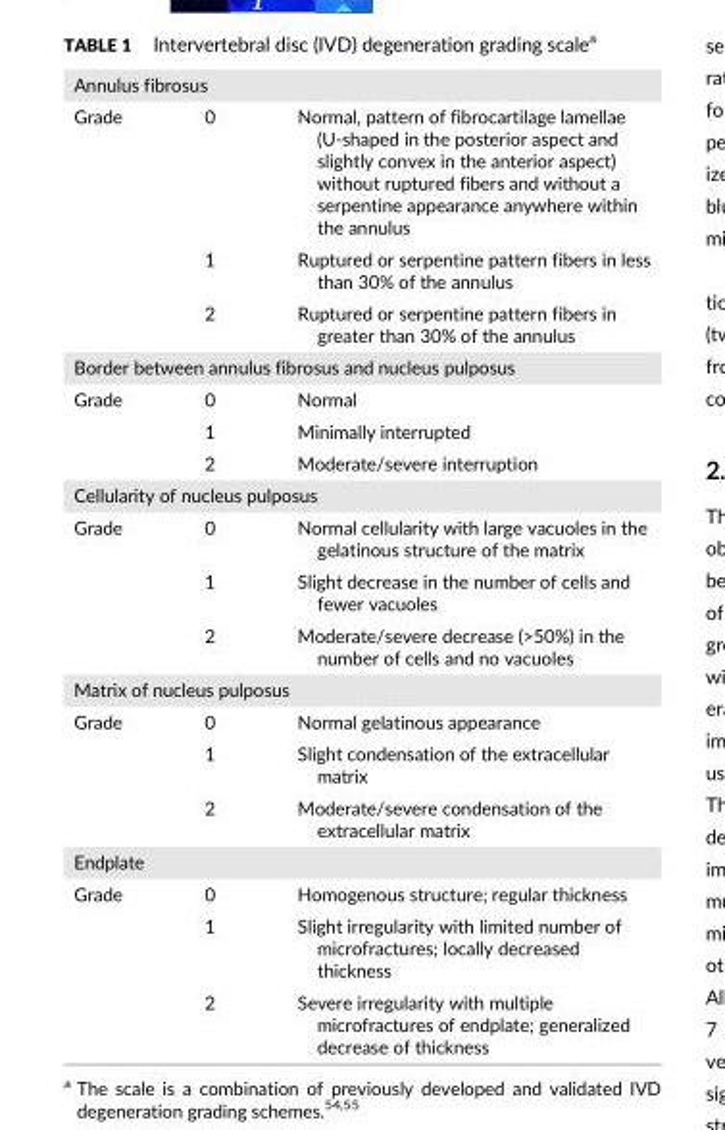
<table><tbody><tr><td colspan="3">Annulus fibrosus</td></tr><tr><td rowspan="3">Grade</td><td>0</td><td>Normal, pattern of fibrocartilage lamellae (U-shaped in the posterior aspect and slightly convex in the anterior aspect) without ruptured fibers and without a serpentine appearance anywhere within the annulus</td></tr><tr><td>1</td><td>Ruptured or serpentine pattern fibers in less than 30% of the annulus</td></tr><tr><td>2</td><td>Ruptured or serpentine pattern fibers in greater than 30% of the annulus</td></tr><tr><td colspan="3">Border between annulus fibrosus and nucleus pulposus</td></tr><tr><td rowspan="3">Grade</td><td>0</td><td>Normal</td></tr><tr><td>1</td><td>Minimally interrupted</td></tr><tr><td>2</td><td>Moderate/severe interruption</td></tr><tr><td colspan="3">Cellularity of nucleus pulposus</td></tr><tr><td rowspan="3">Grade</td><td>0</td><td>Normal cellularity with large vacuoles in the gelatinous structure of the matrix</td></tr><tr><td>1</td><td>Slight decrease in the number of cells and fewer vacuoles</td></tr><tr><td>2</td><td>Moderate/severe decrease (&gt;50%) in the number of cells and no vacuoles</td></tr><tr><td colspan="3">Matrix of nucleus pulposus</td></tr><tr><td rowspan="3">Grade</td><td>0</td><td>Normal gelatinous appearance</td></tr><tr><td>1</td><td>Slight condensation of the extracellular matrix</td></tr><tr><td>2</td><td>Moderate/severe condensation of the extracellular matrix</td></tr><tr><td colspan="3">Endplate</td></tr><tr><td rowspan="3">Grade</td><td>0</td><td>Homogenous structure; regular thickness</td></tr><tr><td>1</td><td>Slight irregularity with limited number of microfractures; locally decreased thickness</td></tr><tr><td>2</td><td>Severe irregularity with multiple microfractures of endplate; generalized decrease of thickness</td></tr></tbody></table>